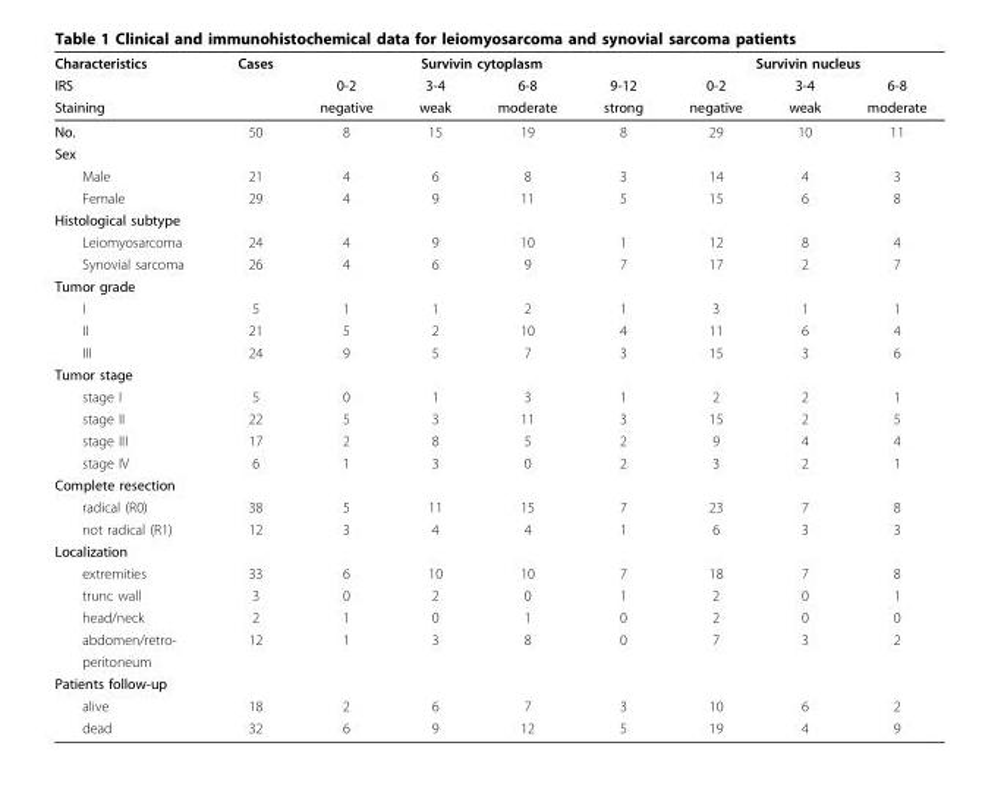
<table><thead><tr><td rowspan="3">Characteristics IRS Staining</td><td rowspan="3">Cases</td><td colspan="4">Survivin cytoplasm</td><td colspan="3">Survivin nucleus</td></tr><tr><td rowspan="2">0-2 negative</td><td rowspan="2">3-4 weak</td><td rowspan="2">6-8 moderate</td><td rowspan="2">9-12 strong</td><td rowspan="2">0-2 negative</td><td rowspan="2">3-4 weak</td><td rowspan="2">6-8 moderate</td></tr><tr></tr></thead><tbody><tr><td>No.</td><td>50</td><td>8</td><td>15</td><td>19</td><td>8</td><td>29</td><td>10</td><td>11</td></tr><tr><td colspan="9">Sex</td></tr><tr><td>Male</td><td>21</td><td>4</td><td>6</td><td>8</td><td>3</td><td>14</td><td>4</td><td>3</td></tr><tr><td>Female</td><td>29</td><td>4</td><td>9</td><td>11</td><td>5</td><td>15</td><td>6</td><td>8</td></tr><tr><td colspan="9">Histological subtype</td></tr><tr><td>Leiomyosarcoma</td><td>24</td><td>4</td><td>9</td><td>10</td><td>1</td><td>12</td><td>8</td><td>4</td></tr><tr><td>Synovial sarcoma</td><td>26</td><td>4</td><td>6</td><td>9</td><td>7</td><td>17</td><td>2</td><td>7</td></tr><tr><td colspan="9">Tumor grade</td></tr><tr><td>I</td><td>5</td><td>1</td><td>1</td><td>2</td><td>1</td><td>3</td><td>1</td><td>1</td></tr><tr><td>II</td><td>21</td><td>5</td><td>2</td><td>10</td><td>4</td><td>11</td><td>6</td><td>4</td></tr><tr><td>III</td><td>24</td><td>9</td><td>5</td><td>7</td><td>3</td><td>15</td><td>3</td><td>6</td></tr><tr><td colspan="9">Tumor stage</td></tr><tr><td>stage I</td><td>5</td><td>0</td><td>1</td><td>3</td><td>1</td><td>2</td><td>2</td><td>1</td></tr><tr><td>stage II</td><td>22</td><td>5</td><td>3</td><td>11</td><td>3</td><td>15</td><td>2</td><td>5</td></tr><tr><td>stage III</td><td>17</td><td>2</td><td>8</td><td>5</td><td>2</td><td>9</td><td>4</td><td>4</td></tr><tr><td>stage IV</td><td>6</td><td>1</td><td>3</td><td>0</td><td>2</td><td>3</td><td>2</td><td>1</td></tr><tr><td colspan="9">Complete resection</td></tr><tr><td>radical (R0)</td><td>38</td><td>5</td><td>11</td><td>15</td><td>7</td><td>23</td><td>7</td><td>8</td></tr><tr><td>not radical (R1)</td><td>12</td><td>3</td><td>4</td><td>4</td><td>1</td><td>6</td><td>3</td><td>3</td></tr><tr><td colspan="9">Localization</td></tr><tr><td>extremities</td><td>33</td><td>6</td><td>10</td><td>10</td><td>7</td><td>18</td><td>7</td><td>8</td></tr><tr><td>trunc wall</td><td>3</td><td>0</td><td>2</td><td>0</td><td>1</td><td>2</td><td>0</td><td>1</td></tr><tr><td>head/neck</td><td>2</td><td>1</td><td>0</td><td>1</td><td>0</td><td>2</td><td>0</td><td>0</td></tr><tr><td>abdomen/retro-</td><td>12</td><td>1</td><td>3</td><td>8</td><td>0</td><td>7</td><td>3</td><td>2</td></tr><tr><td colspan="9">peritoneum</td></tr><tr><td colspan="9">Patients follow-up</td></tr><tr><td>alive</td><td>18</td><td>2</td><td>6</td><td>7</td><td>3</td><td>10</td><td>6</td><td>2</td></tr><tr><td>dead</td><td>32</td><td>6</td><td>9</td><td>12</td><td>5</td><td>19</td><td>4</td><td>9</td></tr></tbody></table>